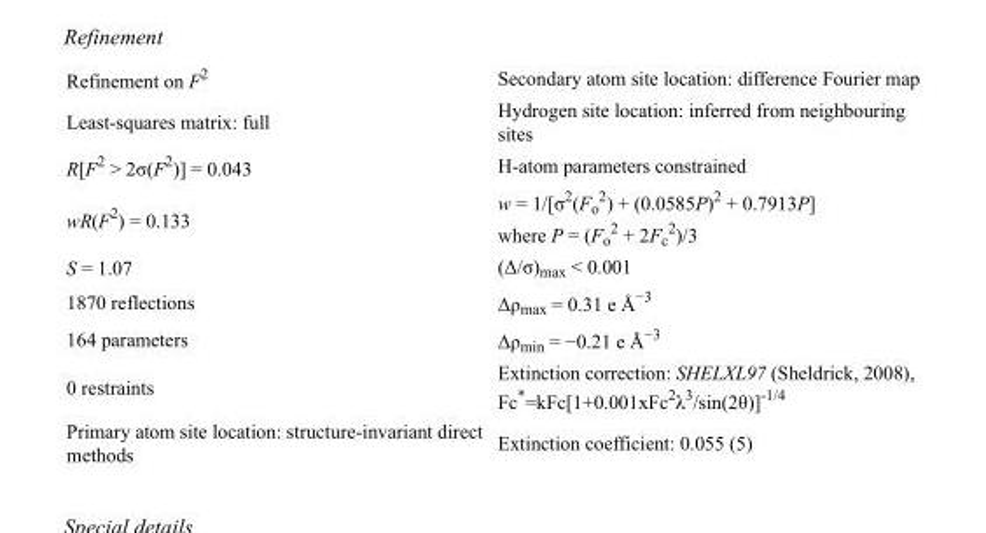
<table><tbody><tr><td>Refinement on F<sup>2</sup></td><td>Secondary atom site location: difference Fourier map</td></tr><tr><td>Least-squares matrix: full</td><td>Hydrogen site location: inferred from neighbouring sites</td></tr><tr><td>R[F<sup>2</sup> &gt; 2σ(F<sup>2</sup>)] = 0.043</td><td>H-atom parameters constrained</td></tr><tr><td>wR(F<sup>2</sup>) = 0.133</td><td>w = 1/[σ<sup>2</sup>(F<sub>o</sub> <sup>2</sup>) + (0.0585P)<sup>2</sup> + 0.7913P] where P = (F<sub>o</sub> <sup>2</sup> + 2F<sub>c</sub> <sup>2</sup>)/3</td></tr><tr><td>S = 1.07</td><td>(Δ/σ)<sub>max</sub> &lt; 0.001</td></tr><tr><td>1870 reflections</td><td>Δρ<sub>max</sub> = 0.31 e Å<sup>−3</sup></td></tr><tr><td>164 parameters</td><td>Δρ<sub>min</sub> = −0.21 e Å<sup>−3</sup></td></tr><tr><td>0 restraints</td><td>Extinction correction: SHELXL97 (Sheldrick, 2008), Fc*=kFc[1+0.001xFc<sup>2</sup>λ<sup>3</sup>/sin(2θ)]<sup>-1/4</sup></td></tr><tr><td>Primary atom site location: structure-invariant direct methods</td><td>Extinction coefficient: 0.055 (5)</td></tr></tbody></table>